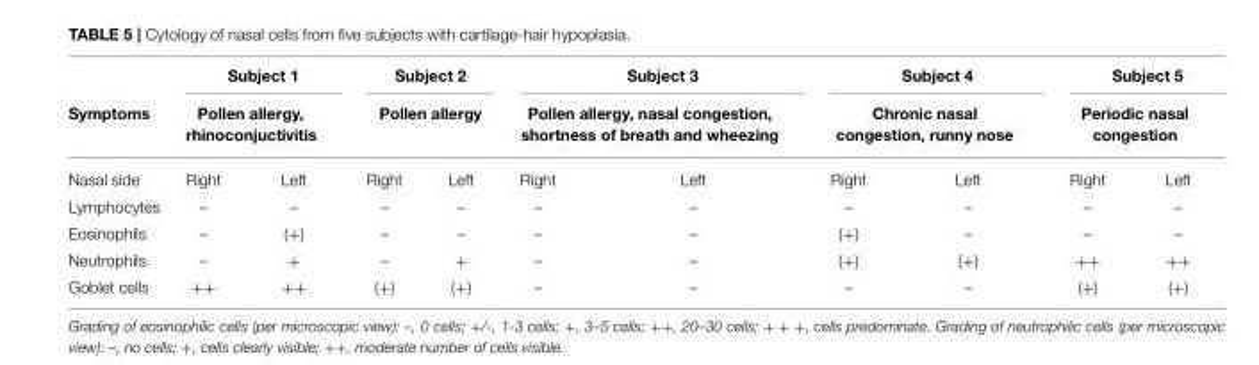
<table><thead><tr><td rowspan="3">Symptoms Nasal side</td><td rowspan="2" colspan="2">Subject 1 Pollen allergy, rhinoconjuctivitis</td><td rowspan="2" colspan="2">Subject 2 Pollen allergy</td><td rowspan="2" colspan="2">Subject 3 Pollen allergy, nasal congestion, shortness of breath and wheezing</td><td rowspan="2" colspan="2">Subject 4 Chronic nasal congestion, runny nose</td><td rowspan="2" colspan="2">Subject 5 Periodic nasal congestion</td></tr><tr></tr><tr><td>Right</td><td>Left</td><td>Right</td><td>Left</td><td>Right</td><td>Left</td><td>Right</td><td>Left</td><td>Right</td><td>Left</td></tr></thead><tbody><tr><td>Lymphocytes</td><td>–</td><td>–</td><td>–</td><td>–</td><td>–</td><td>–</td><td>–</td><td>–</td><td>–</td><td>–</td></tr><tr><td>Eosinophils</td><td>–</td><td>(+)</td><td>–</td><td>–</td><td>–</td><td>–</td><td>(+)</td><td>–</td><td>–</td><td>–</td></tr><tr><td>Neutrophils</td><td>–</td><td>+</td><td>–</td><td>+</td><td>–</td><td>–</td><td>(+)</td><td>(+)</td><td>++</td><td>++</td></tr><tr><td>Goblet cells</td><td>++</td><td>++</td><td>(+)</td><td>(+)</td><td>–</td><td>–</td><td>–</td><td>–</td><td>(+)</td><td>(+)</td></tr></tbody></table>